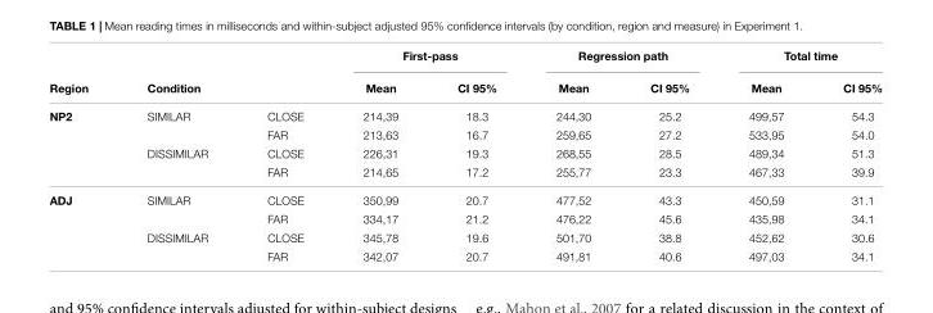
<table><thead><tr><td rowspan="2">Region</td><td></td><td></td><td colspan="2">First-pass</td><td colspan="2">Regression path</td><td colspan="2">Total time</td></tr><tr><td colspan="2">Condition</td><td>Mean</td><td>CI 95%</td><td>Mean</td><td>CI 95%</td><td>Mean</td><td>CI 95%</td></tr></thead><tbody><tr><td rowspan="4">NP2</td><td>SIMILAR</td><td>CLOSE</td><td>214,39</td><td>18.3</td><td>244,30</td><td>25.2</td><td>499,57</td><td>54.3</td></tr><tr><td></td><td>FAR</td><td>213,63</td><td>16.7</td><td>259,65</td><td>27.2</td><td>533,95</td><td>54.0</td></tr><tr><td>DISSIMILAR</td><td>CLOSE</td><td>226,31</td><td>19.3</td><td>268,55</td><td>28.5</td><td>489,34</td><td>51.3</td></tr><tr><td></td><td>FAR</td><td>214,65</td><td>17.2</td><td>255,77</td><td>23.3</td><td>467,33</td><td>39.9</td></tr><tr><td rowspan="4">ADJ</td><td>SIMILAR</td><td>CLOSE</td><td>350,99</td><td>20.7</td><td>477,52</td><td>43.3</td><td>450,59</td><td>31.1</td></tr><tr><td></td><td>FAR</td><td>334,17</td><td>21.2</td><td>476,22</td><td>45.6</td><td>435,98</td><td>34.1</td></tr><tr><td>DISSIMILAR</td><td>CLOSE</td><td>345,78</td><td>19.6</td><td>501,70</td><td>38.8</td><td>452,62</td><td>30.6</td></tr><tr><td></td><td>FAR</td><td>342,07</td><td>20.7</td><td>491,81</td><td>40.6</td><td>497,03</td><td>34.1</td></tr></tbody></table>